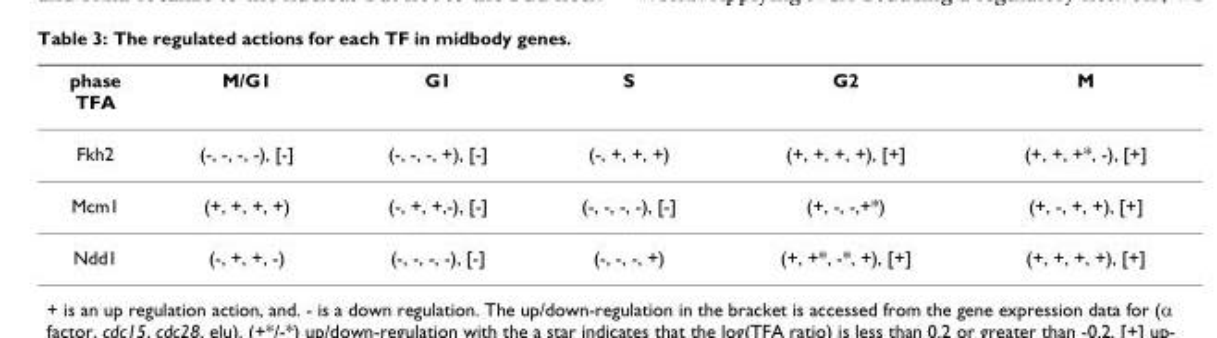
<table><thead><tr><td>phase TFA</td><td>M/G1</td><td>G1</td><td>S</td><td>G2</td><td>M</td></tr></thead><tbody><tr><td>Fkh2</td><td>(-, -, -, -), [-]</td><td>(-, -, -, +), [-]</td><td>(-, +, +, +)</td><td>(+, +, +, +), [+]</td><td>(+, +, +*, -), [+]</td></tr><tr><td>Mcm1</td><td>(+, +, +, +)</td><td>(-, +, +,-), [-]</td><td>(-, -, -, -), [-]</td><td>(+, -, -,+*)</td><td>(+, -, +, +), [+]</td></tr><tr><td>Ndd1</td><td>(-, +, +, -)</td><td>(-, -, -, -), [-]</td><td>(-, -, -, +)</td><td>(+, +*, -*, +), [+]</td><td>(+, +, +, +), [+]</td></tr></tbody></table>